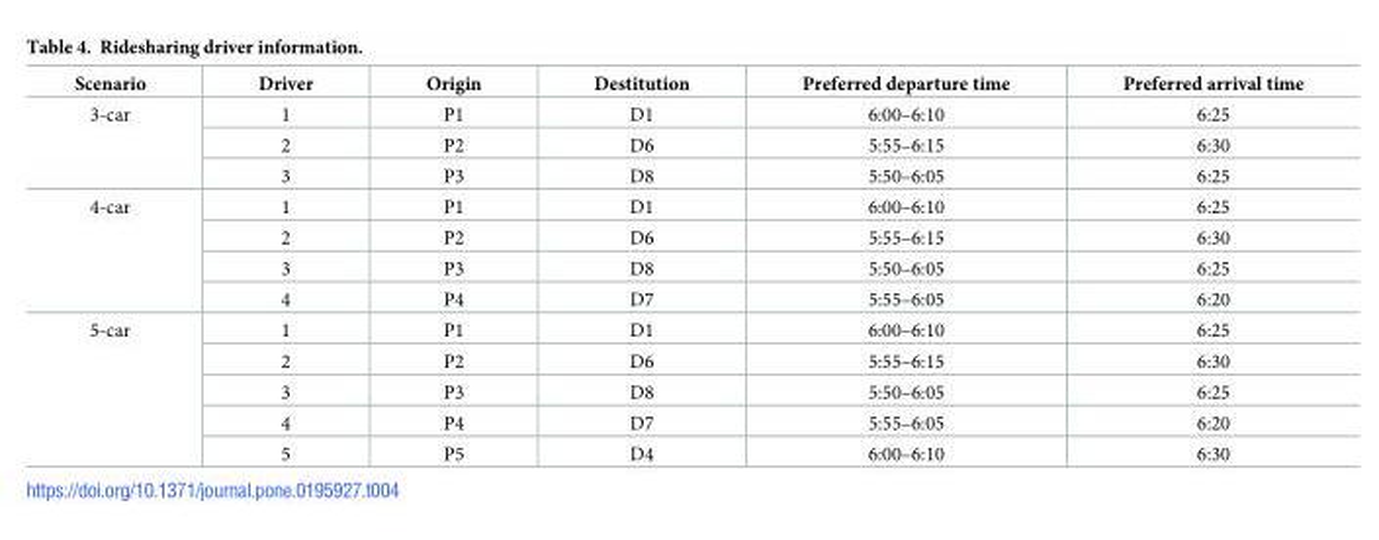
<table><thead><tr><td>Scenario</td><td>Driver</td><td>Origin</td><td>Destitution</td><td>Preferred departure time</td><td>Preferred arrival time</td></tr></thead><tbody><tr><td rowspan="3">3-car</td><td>1</td><td>P1</td><td>D1</td><td>6:00–6:10</td><td>6:25</td></tr><tr><td>2</td><td>P2</td><td>D6</td><td>5:55–6:15</td><td>6:30</td></tr><tr><td>3</td><td>P3</td><td>D8</td><td>5:50–6:05</td><td>6:25</td></tr><tr><td rowspan="4">4-car</td><td>1</td><td>P1</td><td>D1</td><td>6:00–6:10</td><td>6:25</td></tr><tr><td>2</td><td>P2</td><td>D6</td><td>5:55–6:15</td><td>6:30</td></tr><tr><td>3</td><td>P3</td><td>D8</td><td>5:50–6:05</td><td>6:25</td></tr><tr><td>4</td><td>P4</td><td>D7</td><td>5:55–6:05</td><td>6:20</td></tr><tr><td rowspan="5">5-car</td><td>1</td><td>P1</td><td>D1</td><td>6:00–6:10</td><td>6:25</td></tr><tr><td>2</td><td>P2</td><td>D6</td><td>5:55–6:15</td><td>6:30</td></tr><tr><td>3</td><td>P3</td><td>D8</td><td>5:50–6:05</td><td>6:25</td></tr><tr><td>4</td><td>P4</td><td>D7</td><td>5:55–6:05</td><td>6:20</td></tr><tr><td>5</td><td>P5</td><td>D4</td><td>6:00–6:10</td><td>6:30</td></tr></tbody></table>